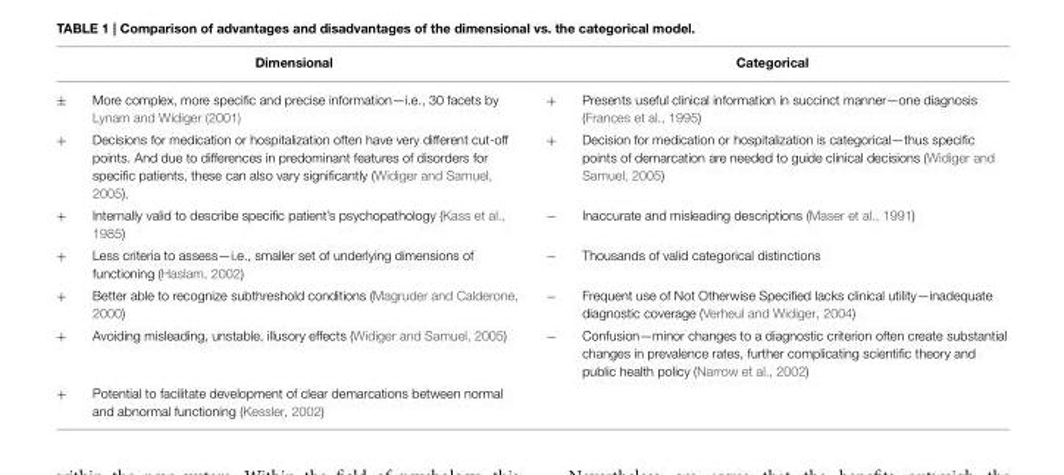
<table><thead><tr><td colspan="2">Dimensional</td><td colspan="2">Categorical</td></tr><tr><td>±</td><td>More complex, more specific and precise information—i.e., 30 facets by Lynam and Widiger (2001)</td><td>+</td><td>Presents useful clinical information in succinct manner—one diagnosis (Frances et al., 1995)</td></tr></thead><tbody><tr><td>+</td><td>Decisions for medication or hospitalization often have very different cut-off points. And due to differences in predominant features of disorders for specific patients, these can also vary significantly (Widiger and Samuel, 2005).</td><td>+</td><td>Decision for medication or hospitalization is categorical—thus specific points of demarcation are needed to guide clinical decisions (Widiger and Samuel, 2005)</td></tr><tr><td>+</td><td>Internally valid to describe specific patient’s psychopathology (Kass et al., 1985)</td><td>−</td><td>Inaccurate and misleading descriptions (Maser et al., 1991)</td></tr><tr><td>+</td><td>Less criteria to assess—i.e., smaller set of underlying dimensions of functioning (Haslam, 2002)</td><td>−</td><td>Thousands of valid categorical distinctions</td></tr><tr><td>+</td><td>Better able to recognize subthreshold conditions (Magruder and Calderone, 2000)</td><td>−</td><td>Frequent use of Not Otherwise Specified lacks clinical utility—inadequate diagnostic coverage (Verheul and Widiger, 2004)</td></tr><tr><td>+</td><td>Avoiding misleading, unstable, illusory effects (Widiger and Samuel, 2005)</td><td>−</td><td>Confusion—minor changes to a diagnostic criterion often create substantial changes in prevalence rates, further complicating scientific theory and public health policy (Narrow et al., 2002)</td></tr><tr><td>+</td><td>Potential to facilitate development of clear demarcations between normal and abnormal functioning (Kessler, 2002)</td><td></td><td></td></tr></tbody></table>